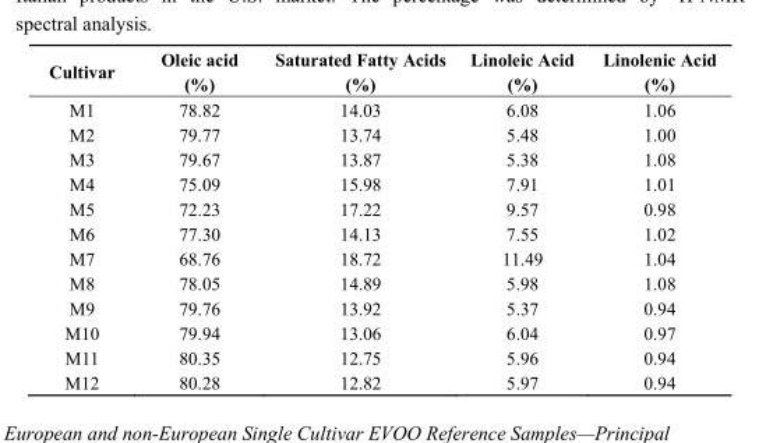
<table><thead><tr><td>Cultivar</td><td>Oleic acid (%)</td><td>Saturated Fatty Acids (%)</td><td>Linoleic Acid (%)</td><td>Linolenic Acid (%)</td></tr></thead><tbody><tr><td>M1</td><td>78.82</td><td>14.03</td><td>6.08</td><td>1.06</td></tr><tr><td>M2</td><td>79.77</td><td>13.74</td><td>5.48</td><td>1.00</td></tr><tr><td>M3</td><td>79.67</td><td>13.87</td><td>5.38</td><td>1.08</td></tr><tr><td>M4</td><td>75.09</td><td>15.98</td><td>7.91</td><td>1.01</td></tr><tr><td>M5</td><td>72.23</td><td>17.22</td><td>9.57</td><td>0.98</td></tr><tr><td>M6</td><td>77.30</td><td>14.13</td><td>7.55</td><td>1.02</td></tr><tr><td>M7</td><td>68.76</td><td>18.72</td><td>11.49</td><td>1.04</td></tr><tr><td>M8</td><td>78.05</td><td>14.89</td><td>5.98</td><td>1.08</td></tr><tr><td>M9</td><td>79.76</td><td>13.92</td><td>5.37</td><td>0.94</td></tr><tr><td>M10</td><td>79.94</td><td>13.06</td><td>6.04</td><td>0.97</td></tr><tr><td>M11</td><td>80.35</td><td>12.75</td><td>5.96</td><td>0.94</td></tr><tr><td>M12</td><td>80.28</td><td>12.82</td><td>5.97</td><td>0.94</td></tr></tbody></table>